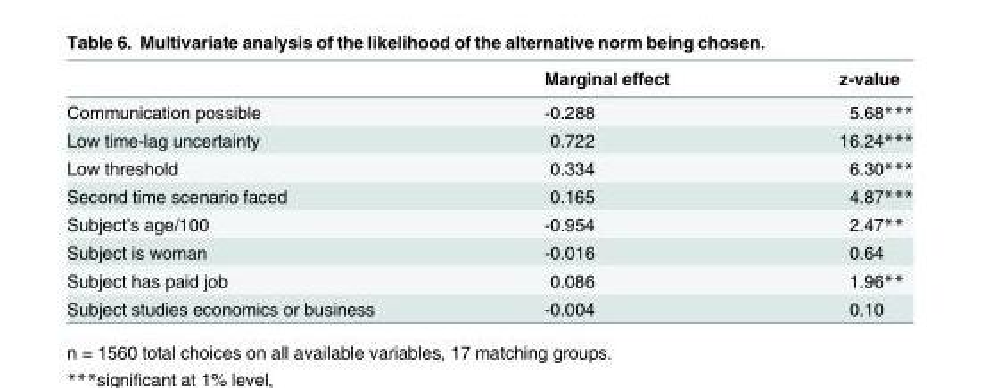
<table><thead><tr><td></td><td>Marginal effect</td><td>z-value</td></tr></thead><tbody><tr><td>Communication possible</td><td>-0.288</td><td>5.68***</td></tr><tr><td>Low time-lag uncertainty</td><td>0.722</td><td>16.24***</td></tr><tr><td>Low threshold</td><td>0.334</td><td>6.30***</td></tr><tr><td>Second time scenario faced</td><td>0.165</td><td>4.87***</td></tr><tr><td>Subject’s age/100</td><td>-0.954</td><td>2.47**</td></tr><tr><td>Subject is woman</td><td>-0.016</td><td>0.64</td></tr><tr><td>Subject has paid job</td><td>0.086</td><td>1.96**</td></tr><tr><td>Subject studies economics or business</td><td>-0.004</td><td>0.10</td></tr></tbody></table>